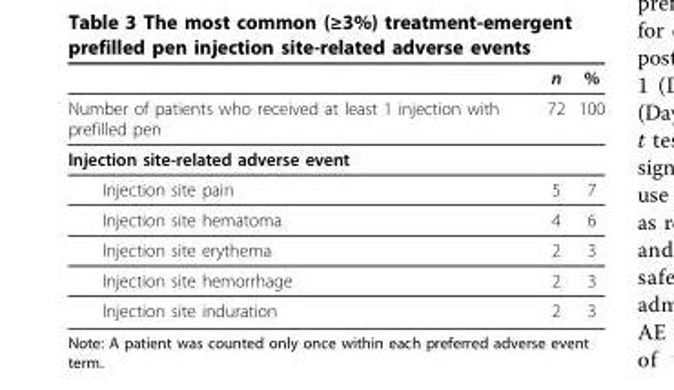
<table><thead><tr><td></td><td>n</td><td>%</td></tr></thead><tbody><tr><td>Number of patients who received at least 1 injection with prefilled pen</td><td>72</td><td>100</td></tr><tr><td colspan="3">Injection site-related adverse event</td></tr><tr><td>Injection site pain</td><td>5</td><td>7</td></tr><tr><td>Injection site hematoma</td><td>4</td><td>6</td></tr><tr><td>Injection site erythema</td><td>2</td><td>3</td></tr><tr><td>Injection site hemorrhage</td><td>2</td><td>3</td></tr><tr><td>Injection site induration</td><td>2</td><td>3</td></tr></tbody></table>